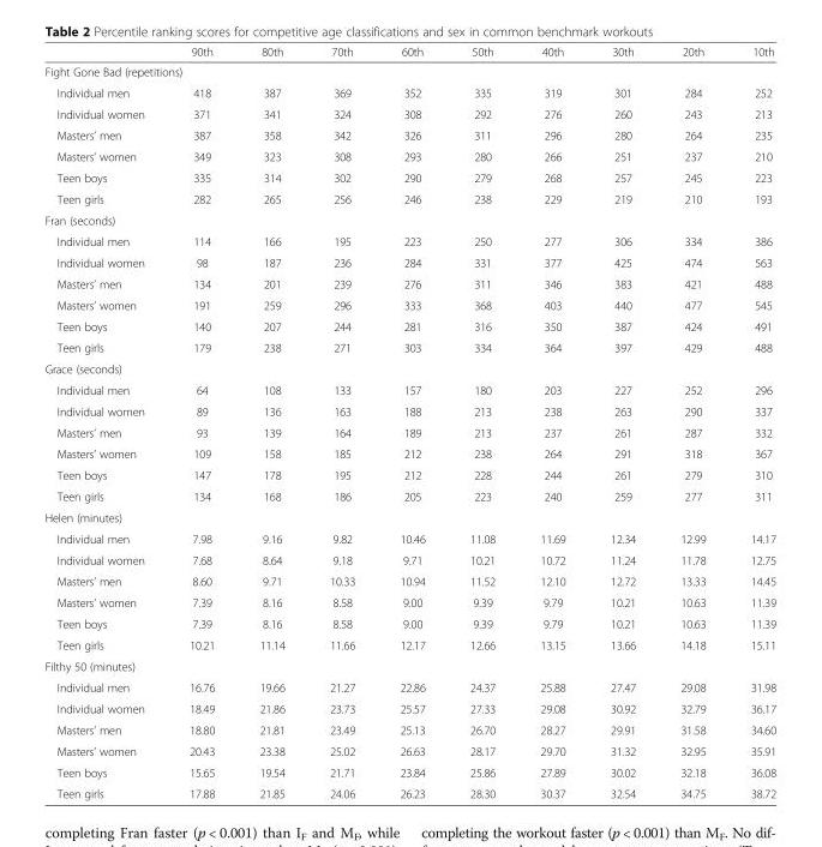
<table><thead><tr><td></td><td>90th</td><td>80th</td><td>70th</td><td>60th</td><td>50th</td><td>40th</td><td>30th</td><td>20th</td><td>10th</td></tr></thead><tbody><tr><td colspan="10">Fight Gone Bad (repetitions)</td></tr><tr><td>Individual men</td><td>418</td><td>387</td><td>369</td><td>352</td><td>335</td><td>319</td><td>301</td><td>284</td><td>252</td></tr><tr><td>Individual women</td><td>371</td><td>341</td><td>324</td><td>308</td><td>292</td><td>276</td><td>260</td><td>243</td><td>213</td></tr><tr><td>Masters’ men</td><td>387</td><td>358</td><td>342</td><td>326</td><td>311</td><td>296</td><td>280</td><td>264</td><td>235</td></tr><tr><td>Masters’ women</td><td>349</td><td>323</td><td>308</td><td>293</td><td>280</td><td>266</td><td>251</td><td>237</td><td>210</td></tr><tr><td>Teen boys</td><td>335</td><td>314</td><td>302</td><td>290</td><td>279</td><td>268</td><td>257</td><td>245</td><td>223</td></tr><tr><td>Teen girls</td><td>282</td><td>265</td><td>256</td><td>246</td><td>238</td><td>229</td><td>219</td><td>210</td><td>193</td></tr><tr><td colspan="10">Fran (seconds)</td></tr><tr><td>Individual men</td><td>114</td><td>166</td><td>195</td><td>223</td><td>250</td><td>277</td><td>306</td><td>334</td><td>386</td></tr><tr><td>Individual women</td><td>98</td><td>187</td><td>236</td><td>284</td><td>331</td><td>377</td><td>425</td><td>474</td><td>563</td></tr><tr><td>Masters’ men</td><td>134</td><td>201</td><td>239</td><td>276</td><td>311</td><td>346</td><td>383</td><td>421</td><td>488</td></tr><tr><td>Masters’ women</td><td>191</td><td>259</td><td>296</td><td>333</td><td>368</td><td>403</td><td>440</td><td>477</td><td>545</td></tr><tr><td>Teen boys</td><td>140</td><td>207</td><td>244</td><td>281</td><td>316</td><td>350</td><td>387</td><td>424</td><td>491</td></tr><tr><td>Teen girls</td><td>179</td><td>238</td><td>271</td><td>303</td><td>334</td><td>364</td><td>397</td><td>429</td><td>488</td></tr><tr><td colspan="10">Grace (seconds)</td></tr><tr><td>Individual men</td><td>64</td><td>108</td><td>133</td><td>157</td><td>180</td><td>203</td><td>227</td><td>252</td><td>296</td></tr><tr><td>Individual women</td><td>89</td><td>136</td><td>163</td><td>188</td><td>213</td><td>238</td><td>263</td><td>290</td><td>337</td></tr><tr><td>Masters’ men</td><td>93</td><td>139</td><td>164</td><td>189</td><td>213</td><td>237</td><td>261</td><td>287</td><td>332</td></tr><tr><td>Masters’ women</td><td>109</td><td>158</td><td>185</td><td>212</td><td>238</td><td>264</td><td>291</td><td>318</td><td>367</td></tr><tr><td>Teen boys</td><td>147</td><td>178</td><td>195</td><td>212</td><td>228</td><td>244</td><td>261</td><td>279</td><td>310</td></tr><tr><td>Teen girls</td><td>134</td><td>168</td><td>186</td><td>205</td><td>223</td><td>240</td><td>259</td><td>277</td><td>311</td></tr><tr><td colspan="10">Helen (minutes)</td></tr><tr><td>Individual men</td><td>7.98</td><td>9.16</td><td>9.82</td><td>10.46</td><td>11.08</td><td>11.69</td><td>12.34</td><td>12.99</td><td>14.17</td></tr><tr><td>Individual women</td><td>7.68</td><td>8.64</td><td>9.18</td><td>9.71</td><td>10.21</td><td>10.72</td><td>11.24</td><td>11.78</td><td>12.75</td></tr><tr><td>Masters’ men</td><td>8.60</td><td>9.71</td><td>10.33</td><td>10.94</td><td>11.52</td><td>12.10</td><td>12.72</td><td>13.33</td><td>14.45</td></tr><tr><td>Masters’ women</td><td>7.39</td><td>8.16</td><td>8.58</td><td>9.00</td><td>9.39</td><td>9.79</td><td>10.21</td><td>10.63</td><td>11.39</td></tr><tr><td>Teen boys</td><td>7.39</td><td>8.16</td><td>8.58</td><td>9.00</td><td>9.39</td><td>9.79</td><td>10.21</td><td>10.63</td><td>11.39</td></tr><tr><td>Teen girls</td><td>10.21</td><td>11.14</td><td>11.66</td><td>12.17</td><td>12.66</td><td>13.15</td><td>13.66</td><td>14.18</td><td>15.11</td></tr><tr><td colspan="10">Filthy 50 (minutes)</td></tr><tr><td>Individual men</td><td>16.76</td><td>19.66</td><td>21.27</td><td>22.86</td><td>24.37</td><td>25.88</td><td>27.47</td><td>29.08</td><td>31.98</td></tr><tr><td>Individual women</td><td>18.49</td><td>21.86</td><td>23.73</td><td>25.57</td><td>27.33</td><td>29.08</td><td>30.92</td><td>32.79</td><td>36.17</td></tr><tr><td>Masters’ men</td><td>18.80</td><td>21.81</td><td>23.49</td><td>25.13</td><td>26.70</td><td>28.27</td><td>29.91</td><td>31.58</td><td>34.60</td></tr><tr><td>Masters’ women</td><td>20.43</td><td>23.38</td><td>25.02</td><td>26.63</td><td>28.17</td><td>29.70</td><td>31.32</td><td>32.95</td><td>35.91</td></tr><tr><td>Teen boys</td><td>15.65</td><td>19.54</td><td>21.71</td><td>23.84</td><td>25.86</td><td>27.89</td><td>30.02</td><td>32.18</td><td>36.08</td></tr><tr><td>Teen girls</td><td>17.88</td><td>21.85</td><td>24.06</td><td>26.23</td><td>28.30</td><td>30.37</td><td>32.54</td><td>34.75</td><td>38.72</td></tr></tbody></table>